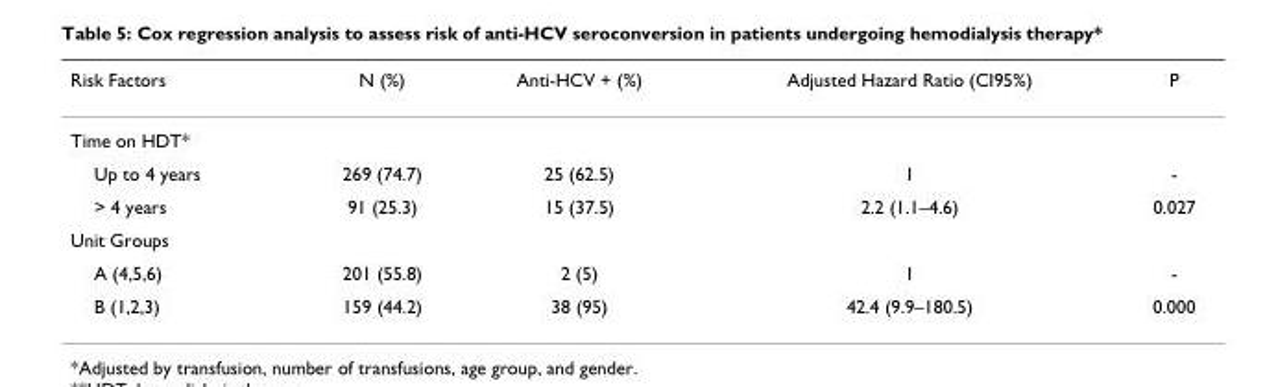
<table><thead><tr><td>Risk Factors</td><td>N (%)</td><td>Anti-HCV + (%)</td><td>Adjusted Hazard Ratio (CI95%)</td><td>P</td></tr></thead><tbody><tr><td colspan="5">Time on HDT*</td></tr><tr><td>Up to 4 years</td><td>269 (74.7)</td><td>25 (62.5)</td><td>1</td><td>-</td></tr><tr><td>&gt; 4 years</td><td>91 (25.3)</td><td>15 (37.5)</td><td>2.2 (1.1–4.6)</td><td>0.027</td></tr><tr><td colspan="5">Unit Groups</td></tr><tr><td>A (4,5,6)</td><td>201 (55.8)</td><td>2 (5)</td><td>1</td><td>-</td></tr><tr><td>B (1,2,3)</td><td>159 (44.2)</td><td>38 (95)</td><td>42.4 (9.9–180.5)</td><td>0.000</td></tr></tbody></table>